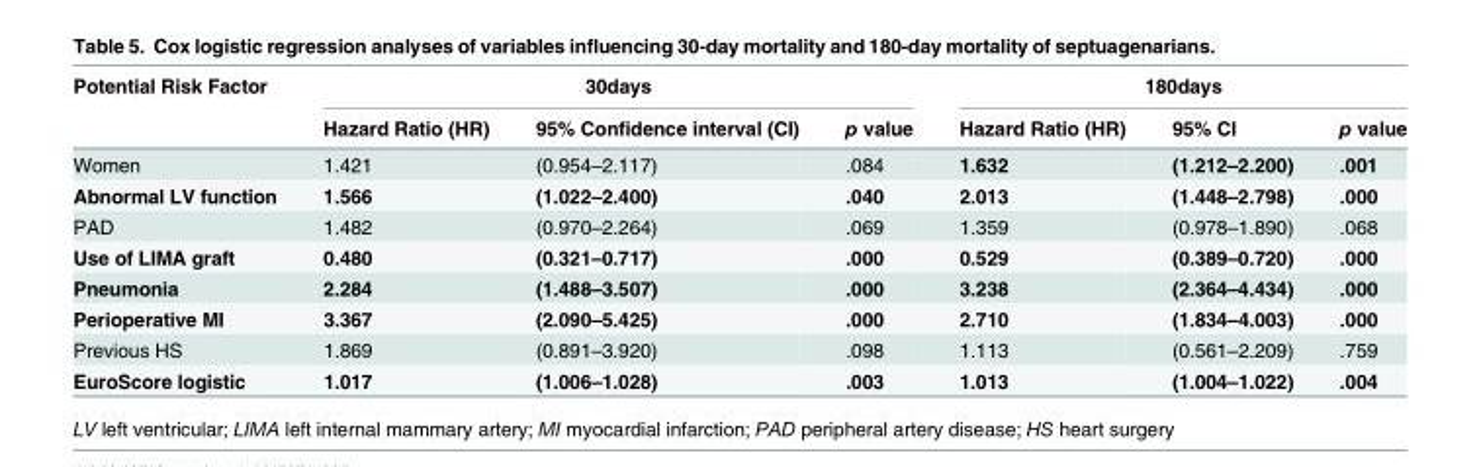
<table><thead><tr><td rowspan="2">Potential Risk Factor</td><td colspan="3">30days</td><td colspan="3">180days</td></tr><tr><td>Hazard Ratio (HR)</td><td>95% Confidence interval (CI)</td><td>p value</td><td>Hazard Ratio (HR)</td><td>95% CI</td><td>p value</td></tr></thead><tbody><tr><td>Women</td><td>1.421</td><td>(0.954–2.117)</td><td>.084</td><td>1.632</td><td>(1.212–2.200)</td><td>.001</td></tr><tr><td>Abnormal LV function</td><td>1.566</td><td>(1.022–2.400)</td><td>.040</td><td>2.013</td><td>(1.448–2.798)</td><td>.000</td></tr><tr><td>PAD</td><td>1.482</td><td>(0.970–2.264)</td><td>.069</td><td>1.359</td><td>(0.978–1.890)</td><td>.068</td></tr><tr><td>Use of LIMA graft</td><td>0.480</td><td>(0.321–0.717)</td><td>.000</td><td>0.529</td><td>(0.389–0.720)</td><td>.000</td></tr><tr><td>Pneumonia</td><td>2.284</td><td>(1.488–3.507)</td><td>.000</td><td>3.238</td><td>(2.364–4.434)</td><td>.000</td></tr><tr><td>Perioperative MI</td><td>3.367</td><td>(2.090–5.425)</td><td>.000</td><td>2.710</td><td>(1.834–4.003)</td><td>.000</td></tr><tr><td>Previous HS</td><td>1.869</td><td>(0.891–3.920)</td><td>.098</td><td>1.113</td><td>(0.561–2.209)</td><td>.759</td></tr><tr><td>EuroScore logistic</td><td>1.017</td><td>(1.006–1.028)</td><td>.003</td><td>1.013</td><td>(1.004–1.022)</td><td>.004</td></tr></tbody></table>